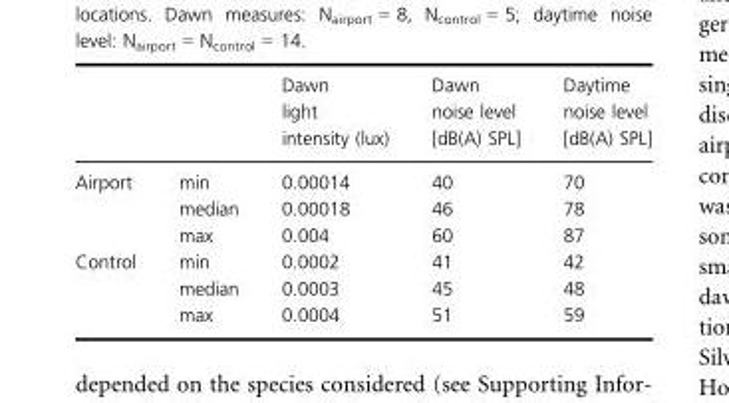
<table><thead><tr><td></td><td></td><td>Dawn light intensity (lux)</td><td>Dawn noise level [dB(A) SPL]</td><td>Daytime noise level [dB(A) SPL]</td></tr></thead><tbody><tr><td rowspan="3">Airport</td><td>min</td><td>0.00014</td><td>40</td><td>70</td></tr><tr><td>median</td><td>0.00018</td><td>46</td><td>78</td></tr><tr><td>max</td><td>0.004</td><td>60</td><td>87</td></tr><tr><td rowspan="3">Control</td><td>min</td><td>0.0002</td><td>41</td><td>42</td></tr><tr><td>median</td><td>0.0003</td><td>45</td><td>48</td></tr><tr><td>max</td><td>0.0004</td><td>51</td><td>59</td></tr></tbody></table>